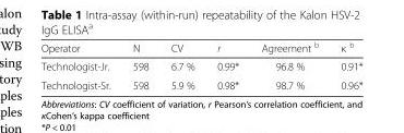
<table><thead><tr><td>Operator</td><td>N</td><td>CV</td><td>r</td><td>Agreement <sup>b</sup></td><td>κ <sup>b</sup></td></tr></thead><tbody><tr><td>Technologist-Jr.</td><td>598</td><td>6.7 %</td><td>0.99*</td><td>96.8 %</td><td>0.91*</td></tr><tr><td>Technologist-Sr.</td><td>598</td><td>5.9 %</td><td>0.98*</td><td>98.7 %</td><td>0.96*</td></tr></tbody></table>